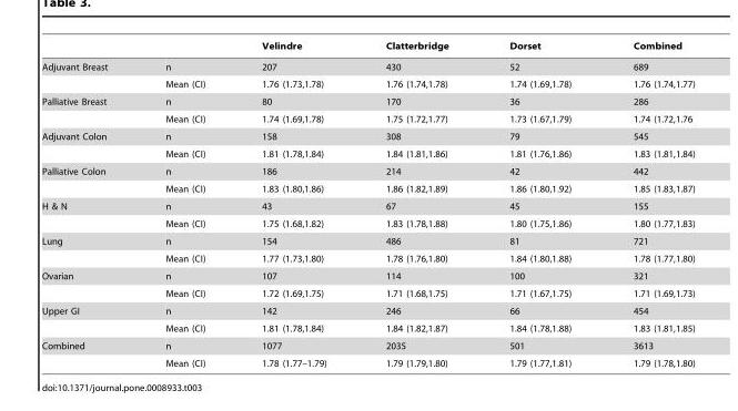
<table><thead><tr><td></td><td></td><td>Velindre</td><td>Clatterbridge</td><td>Dorset</td><td>Combined</td></tr></thead><tbody><tr><td rowspan="2">Adjuvant Breast</td><td>n</td><td>207</td><td>430</td><td>52</td><td>689</td></tr><tr><td>Mean (CI)</td><td>1.76 (1.73,1.78)</td><td>1.76 (1.74,1.78)</td><td>1.74 (1.69,1.78)</td><td>1.76 (1.74,1.77)</td></tr><tr><td rowspan="2">Palliative Breast</td><td>n</td><td>80</td><td>170</td><td>36</td><td>286</td></tr><tr><td>Mean (CI)</td><td>1.74 (1.69,1.78)</td><td>1.75 (1.72,1.77)</td><td>1.73 (1.67,1.79)</td><td>1.74 (1.72,1.76</td></tr><tr><td rowspan="2">Adjuvant Colon</td><td>n</td><td>158</td><td>308</td><td>79</td><td>545</td></tr><tr><td>Mean (CI)</td><td>1.81 (1.78,1.84)</td><td>1.84 (1.81,1.86)</td><td>1.81 (1.76,1.86)</td><td>1.83 (1.81,1.84)</td></tr><tr><td rowspan="2">Palliative Colon</td><td>n</td><td>186</td><td>214</td><td>42</td><td>442</td></tr><tr><td>Mean (CI)</td><td>1.83 (1.80,1.86)</td><td>1.86 (1.82,1.89)</td><td>1.86 (1.80,1.92)</td><td>1.85 (1.83,1.87)</td></tr><tr><td rowspan="2">H &amp; N</td><td>n</td><td>43</td><td>67</td><td>45</td><td>155</td></tr><tr><td>Mean (CI)</td><td>1.75 (1.68,1.82)</td><td>1.83 (1.78,1.88)</td><td>1.80 (1.75,1.86)</td><td>1.80 (1.77,1.83)</td></tr><tr><td rowspan="2">Lung</td><td>n</td><td>154</td><td>486</td><td>81</td><td>721</td></tr><tr><td>Mean (CI)</td><td>1.77 (1.73,1.80)</td><td>1.78 (1.76,1.80)</td><td>1.84 (1.80,1.88)</td><td>1.78 (1.77,1.80)</td></tr><tr><td rowspan="2">Ovarian</td><td>n</td><td>107</td><td>114</td><td>100</td><td>321</td></tr><tr><td>Mean (CI)</td><td>1.72 (1.69,1.75)</td><td>1.71 (1.68,1.75)</td><td>1.71 (1.67,1.75)</td><td>1.71 (1.69,1.73)</td></tr><tr><td rowspan="2">Upper GI</td><td>n</td><td>142</td><td>246</td><td>66</td><td>454</td></tr><tr><td>Mean (CI)</td><td>1.81 (1.78,1.84)</td><td>1.84 (1.82,1.87)</td><td>1.84 (1.78,1.88)</td><td>1.83 (1.81,1.85)</td></tr><tr><td rowspan="2">Combined</td><td>n</td><td>1077</td><td>2035</td><td>501</td><td>3613</td></tr><tr><td>Mean (CI)</td><td>1.78 (1.77–1.79)</td><td>1.79 (1.79,1.80)</td><td>1.79 (1.77,1.81)</td><td>1.79 (1.78,1.80)</td></tr></tbody></table>